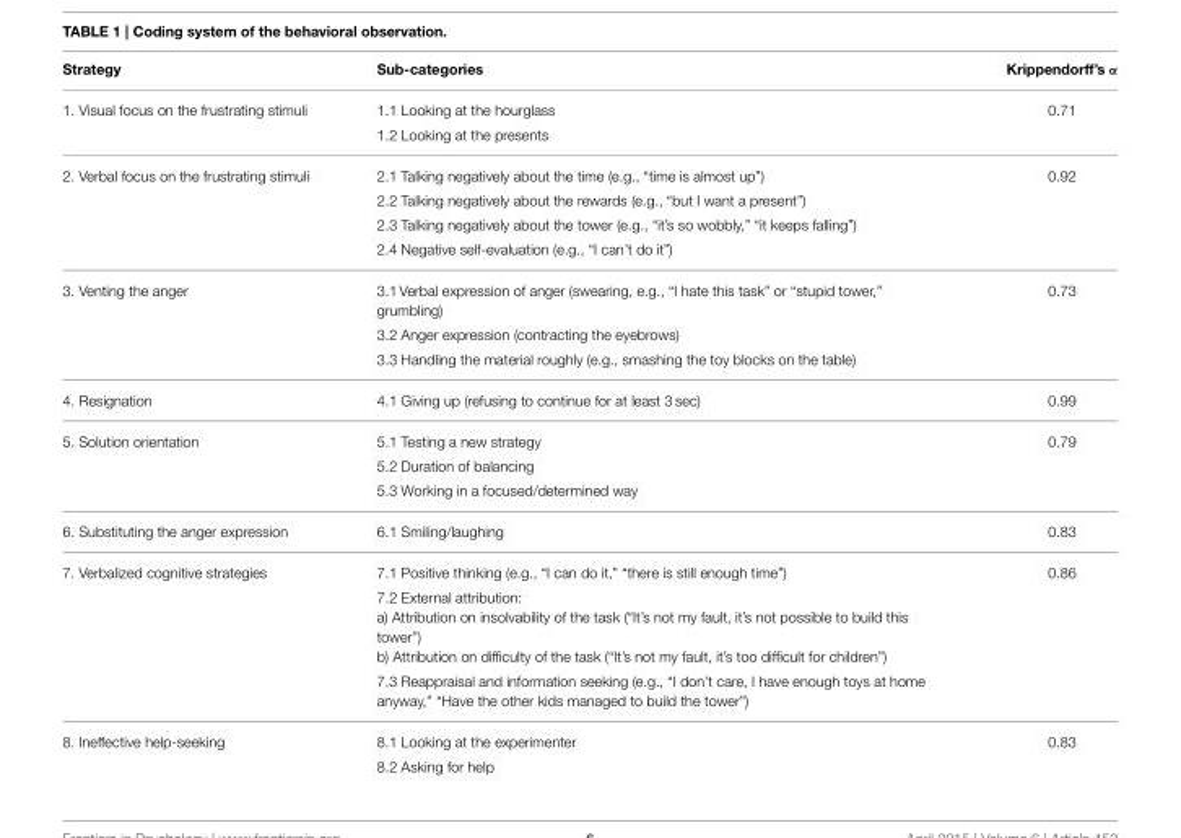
<table><thead><tr><td>Strategy</td><td>Sub-categories</td><td>Krippendorff’s α</td></tr></thead><tbody><tr><td rowspan="2">1. Visual focus on the frustrating stimuli</td><td>1.1 Looking at the hourglass</td><td>0.71</td></tr><tr><td>1.2 Looking at the presents</td><td></td></tr><tr><td rowspan="4">2. Verbal focus on the frustrating stimuli</td><td>2.1 Talking negatively about the time (e.g., “time is almost up”)</td><td>0.92</td></tr><tr><td>2.2 Talking negatively about the rewards (e.g., “but I want a present”)</td><td></td></tr><tr><td>2.3 Talking negatively about the tower (e.g., “it’s so wobbly,” “it keeps falling”)</td><td></td></tr><tr><td>2.4 Negative self-evaluation (e.g., “I can’t do it”)</td><td></td></tr><tr><td rowspan="3">3. Venting the anger</td><td>3.1 Verbal expression of anger (swearing, e.g., “I hate this task” or “stupid tower,” grumbling)</td><td>0.73</td></tr><tr><td>3.2 Anger expression (contracting the eyebrows)</td><td></td></tr><tr><td>3.3 Handling the material roughly (e.g., smashing the toy blocks on the table)</td><td></td></tr><tr><td>4. Resignation</td><td>4.1 Giving up (refusing to continue for at least 3 sec)</td><td>0.99</td></tr><tr><td rowspan="3">5. Solution orientation</td><td>5.1 Testing a new strategy</td><td>0.79</td></tr><tr><td>5.2 Duration of balancing</td><td></td></tr><tr><td>5.3 Working in a focused/determined way</td><td></td></tr><tr><td>6. Substituting the anger expression</td><td>6.1 Smiling/laughing</td><td>0.83</td></tr><tr><td rowspan="3">7. Verbalized cognitive strategies</td><td>7.1 Positive thinking (e.g., “I can do it,” “there is still enough time”)</td><td>0.86</td></tr><tr><td>7.2 External attribution: a) Attribution on insolvability of the task (“It’s not my fault, it’s not possible to build this tower”) b) Attribution on difficulty of the task (“It’s not my fault, it’s too difficult for children”)</td><td></td></tr><tr><td>7.3 Reappraisal and information seeking (e.g., “I don’t care, I have enough toys at home anyway,” “Have the other kids managed to build the tower”)</td><td></td></tr><tr><td rowspan="2">8. Ineffective help-seeking</td><td>8.1 Looking at the experimenter</td><td>0.83</td></tr><tr><td>8.2 Asking for help</td><td></td></tr></tbody></table>